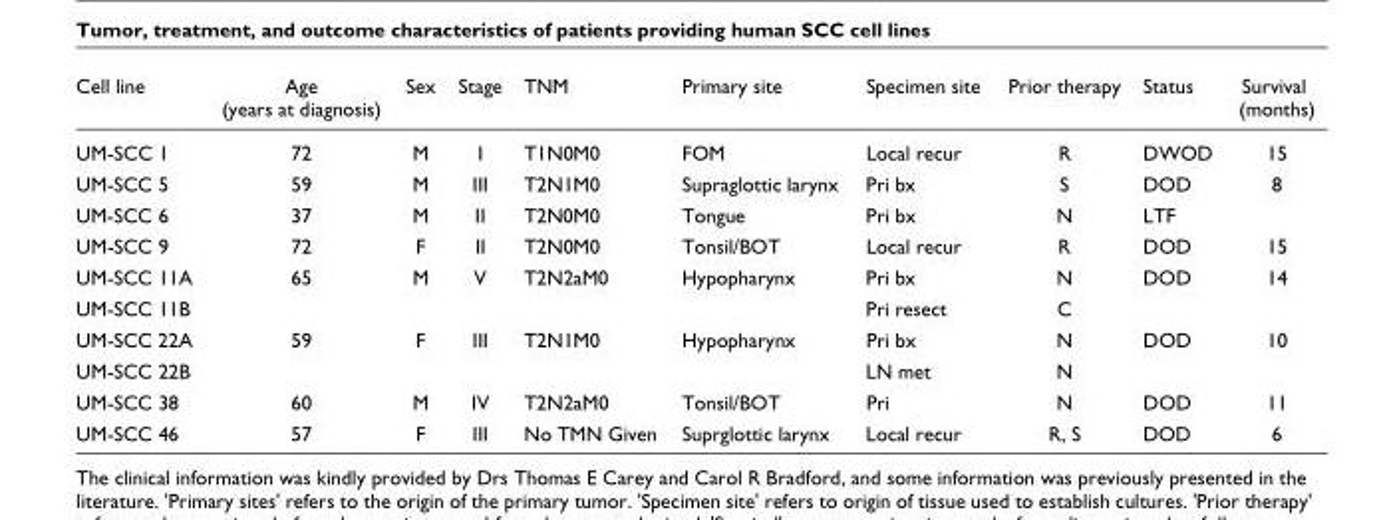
<table><thead><tr><td>Cell line</td><td>Age (years at diagnosis)</td><td>Sex</td><td>Stage</td><td>TNM</td><td>Primary site</td><td>Specimen site</td><td>Prior therapy</td><td>Status</td><td>Survival (months)</td></tr></thead><tbody><tr><td>UM-SCC 1</td><td>72</td><td>M</td><td>I</td><td>T1N0M0</td><td>FOM</td><td>Local recur</td><td>R</td><td>DWOD</td><td>15</td></tr><tr><td>UM-SCC 5</td><td>59</td><td>M</td><td>III</td><td>T2N1M0</td><td>Supraglottic larynx</td><td>Pri bx</td><td>S</td><td>DOD</td><td>8</td></tr><tr><td>UM-SCC 6</td><td>37</td><td>M</td><td>II</td><td>T2N0M0</td><td>Tongue</td><td>Pri bx</td><td>N</td><td>LTF</td><td></td></tr><tr><td>UM-SCC 9</td><td>72</td><td>F</td><td>II</td><td>T2N0M0</td><td>Tonsil/BOT</td><td>Local recur</td><td>R</td><td>DOD</td><td>15</td></tr><tr><td>UM-SCC 11A</td><td>65</td><td>M</td><td>V</td><td>T2N2aM0</td><td>Hypopharynx</td><td>Pri bx</td><td>N</td><td>DOD</td><td>14</td></tr><tr><td>UM-SCC 11B</td><td></td><td></td><td></td><td></td><td></td><td>Pri resect</td><td>C</td><td></td><td></td></tr><tr><td>UM-SCC 22A</td><td>59</td><td>F</td><td>III</td><td>T2N1M0</td><td>Hypopharynx</td><td>Pri bx</td><td>N</td><td>DOD</td><td>10</td></tr><tr><td>UM-SCC 22B</td><td></td><td></td><td></td><td></td><td></td><td>LN met</td><td>N</td><td></td><td></td></tr><tr><td>UM-SCC 38</td><td>60</td><td>M</td><td>IV</td><td>T2N2aM0</td><td>Tonsil/BOT</td><td>Pri</td><td>N</td><td>DOD</td><td>11</td></tr><tr><td>UM-SCC 46</td><td>57</td><td>F</td><td>III</td><td>No TMN Given</td><td>Suprglottic larynx</td><td>Local recur</td><td>R, S</td><td>DOD</td><td>6</td></tr></tbody></table>